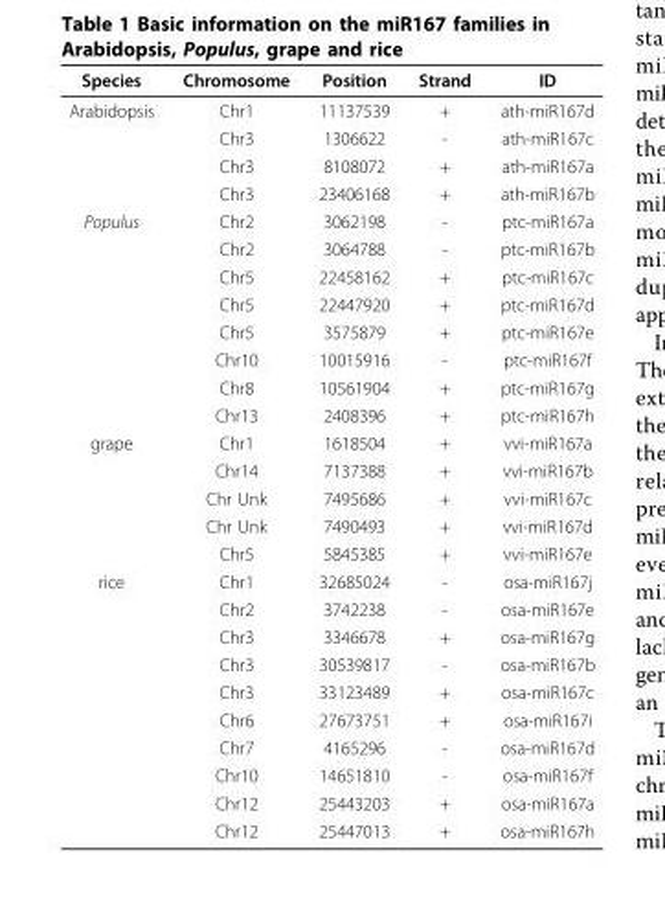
<table><thead><tr><td>Species</td><td>Chromosome</td><td>Position</td><td>Strand</td><td>ID</td></tr></thead><tbody><tr><td rowspan="4">Arabidopsis</td><td>Chr1</td><td>11137539</td><td>+</td><td>ath-miR167d</td></tr><tr><td>Chr3</td><td>1306622</td><td>-</td><td>ath-miR167c</td></tr><tr><td>Chr3</td><td>8108072</td><td>+</td><td>ath-miR167a</td></tr><tr><td>Chr3</td><td>23406168</td><td>+</td><td>ath-miR167b</td></tr><tr><td rowspan="8">Populus</td><td>Chr2</td><td>3062198</td><td>-</td><td>ptc-miR167a</td></tr><tr><td>Chr2</td><td>3064788</td><td>-</td><td>ptc-miR167b</td></tr><tr><td>Chr5</td><td>22458162</td><td>+</td><td>ptc-miR167c</td></tr><tr><td>Chr5</td><td>22447920</td><td>+</td><td>ptc-miR167d</td></tr><tr><td>Chr5</td><td>3575879</td><td>+</td><td>ptc-miR167e</td></tr><tr><td>Chr10</td><td>10015916</td><td>-</td><td>ptc-miR167f</td></tr><tr><td>Chr8</td><td>10561904</td><td>+</td><td>ptc-miR167g</td></tr><tr><td>Chr13</td><td>2408396</td><td>+</td><td>ptc-miR167h</td></tr><tr><td rowspan="5">grape</td><td>Chr1</td><td>1618504</td><td>+</td><td>vvi-miR167a</td></tr><tr><td>Chr14</td><td>7137388</td><td>+</td><td>vvi-miR167b</td></tr><tr><td>Chr Unk</td><td>7495686</td><td>+</td><td>vvi-miR167c</td></tr><tr><td>Chr Unk</td><td>7490493</td><td>+</td><td>vvi-miR167d</td></tr><tr><td>Chr5</td><td>5845385</td><td>+</td><td>vvi-miR167e</td></tr><tr><td rowspan="10">rice</td><td>Chr1</td><td>32685024</td><td>-</td><td>osa-miR167j</td></tr><tr><td>Chr2</td><td>3742238</td><td>-</td><td>osa-miR167e</td></tr><tr><td>Chr3</td><td>3346678</td><td>+</td><td>osa-miR167g</td></tr><tr><td>Chr3</td><td>30539817</td><td>-</td><td>osa-miR167b</td></tr><tr><td>Chr3</td><td>33123489</td><td>+</td><td>osa-miR167c</td></tr><tr><td>Chr6</td><td>27673751</td><td>+</td><td>osa-miR167i</td></tr><tr><td>Chr7</td><td>4165296</td><td>-</td><td>osa-miR167d</td></tr><tr><td>Chr10</td><td>14651810</td><td>-</td><td>osa-miR167f</td></tr><tr><td>Chr12</td><td>25443203</td><td>+</td><td>osa-miR167a</td></tr><tr><td>Chr12</td><td>25447013</td><td>+</td><td>osa-miR167h</td></tr></tbody></table>